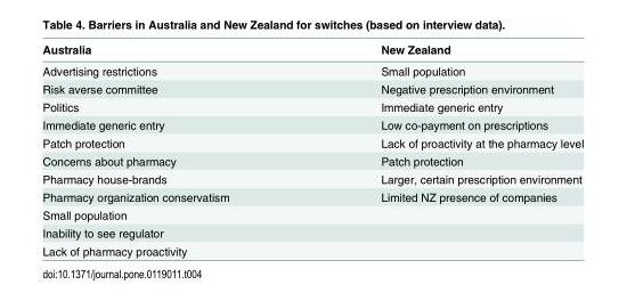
<table><thead><tr><td>Australia</td><td>New Zealand</td></tr></thead><tbody><tr><td>Advertising restrictions</td><td>Small population</td></tr><tr><td>Risk averse committee</td><td>Negative prescription environment</td></tr><tr><td>Politics</td><td>Immediate generic entry</td></tr><tr><td>Immediate generic entry</td><td>Low co-payment on prescriptions</td></tr><tr><td>Patch protection</td><td>Lack of proactivity at the pharmacy level</td></tr><tr><td>Concerns about pharmacy</td><td>Patch protection</td></tr><tr><td>Pharmacy house-brands</td><td>Larger, certain prescription environment</td></tr><tr><td>Pharmacy organization conservatism</td><td>Limited NZ presence of companies</td></tr><tr><td colspan="2">Small population</td></tr><tr><td colspan="2">Inability to see regulator</td></tr><tr><td>Lack of pharmacy proactivity</td><td></td></tr></tbody></table>